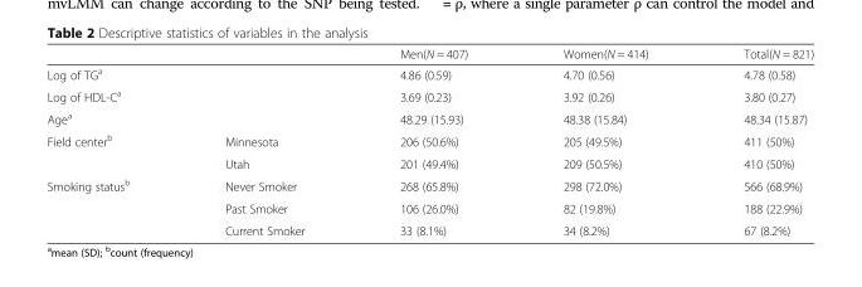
<table><thead><tr><td></td><td></td><td>Men(N = 407)</td><td>Women(N = 414)</td><td>Total(N = 821)</td></tr></thead><tbody><tr><td colspan="2">Log of TG<sup>a</sup></td><td>4.86 (0.59)</td><td>4.70 (0.56)</td><td>4.78 (0.58)</td></tr><tr><td colspan="2">Log of HDL-C<sup>a</sup></td><td>3.69 (0.23)</td><td>3.92 (0.26)</td><td>3.80 (0.27)</td></tr><tr><td colspan="2">Age<sup>a</sup></td><td>48.29 (15.93)</td><td>48.38 (15.84)</td><td>48.34 (15.87)</td></tr><tr><td rowspan="2">Field center<sup>b</sup></td><td>Minnesota</td><td>206 (50.6%)</td><td>205 (49.5%)</td><td>411 (50%)</td></tr><tr><td>Utah</td><td>201 (49.4%)</td><td>209 (50.5%)</td><td>410 (50%)</td></tr><tr><td rowspan="3">Smoking status<sup>b</sup></td><td>Never Smoker</td><td>268 (65.8%)</td><td>298 (72.0%)</td><td>566 (68.9%)</td></tr><tr><td>Past Smoker</td><td>106 (26.0%)</td><td>82 (19.8%)</td><td>188 (22.9%)</td></tr><tr><td>Current Smoker</td><td>33 (8.1%)</td><td>34 (8.2%)</td><td>67 (8.2%)</td></tr></tbody></table>